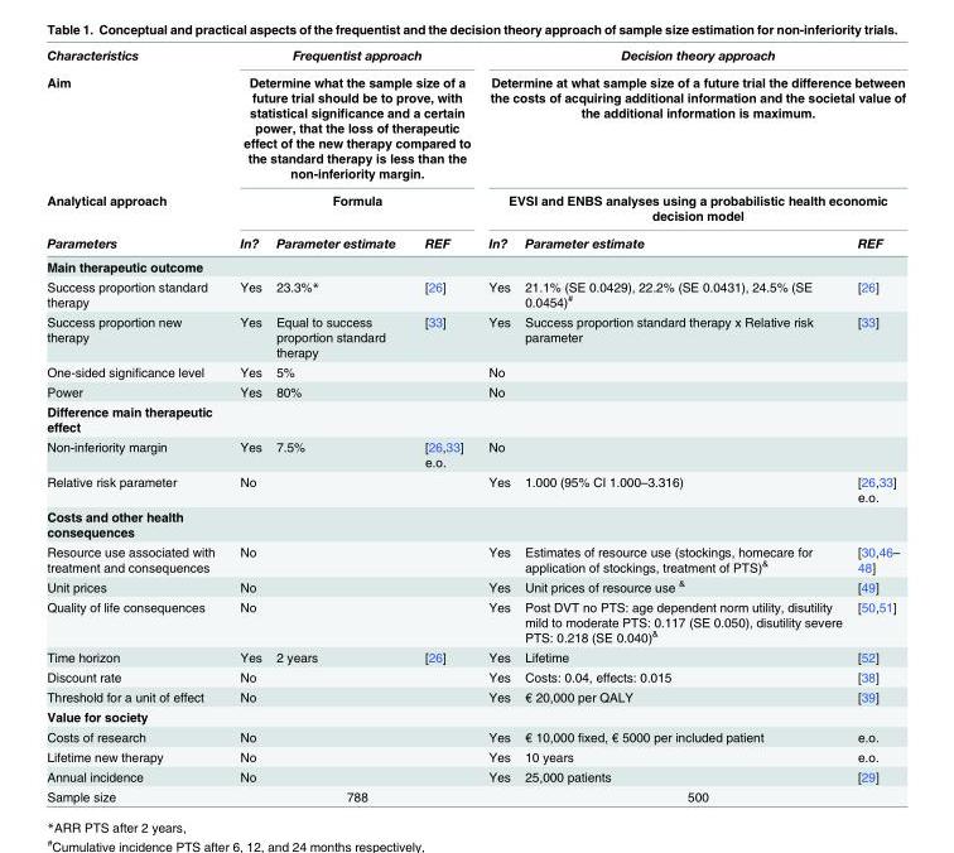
<table><thead><tr><td rowspan="4">Characteristics Aim Analytical approach Parameters</td><td rowspan="3" colspan="3">Frequentist approach Determine what the sample size of a future trial should be to prove, with statistical significance and a certain power, that the loss of therapeutic effect of the new therapy compared to the standard therapy is less than the non-inferiority margin. Formula</td><td rowspan="3" colspan="3">Decision theory approach Determine at what sample size of a future trial the difference between the costs of acquiring additional information and the societal value of the additional information is maximum. EVSI and ENBS analyses using a probabilistic health economic decision model</td></tr><tr></tr><tr></tr><tr><td>In?</td><td>Parameter estimate</td><td>REF</td><td>In?</td><td>Parameter estimate</td><td>REF</td></tr></thead><tbody><tr><td colspan="7">Main therapeutic outcome</td></tr><tr><td>Success proportion standard therapy</td><td>Yes</td><td>23.3%*</td><td>[26]</td><td>Yes</td><td>21.1% (SE 0.0429), 22.2% (SE 0.0431), 24.5% (SE 0.0454)<sup>#</sup></td><td>[26]</td></tr><tr><td>Success proportion new therapy</td><td>Yes</td><td>Equal to success proportion standard therapy</td><td>[33]</td><td>Yes</td><td>Success proportion standard therapy x Relative risk parameter</td><td>[33]</td></tr><tr><td>One-sided significance level</td><td>Yes</td><td>5%</td><td></td><td>No</td><td></td><td></td></tr><tr><td>Power</td><td>Yes</td><td>80%</td><td></td><td>No</td><td></td><td></td></tr><tr><td colspan="7">Difference main therapeutic effect</td></tr><tr><td>Non-inferiority margin</td><td>Yes</td><td>7.5%</td><td>[26,33] e.o.</td><td>No</td><td></td><td></td></tr><tr><td>Relative risk parameter</td><td>No</td><td></td><td></td><td>Yes</td><td>1.000 (95% CI 1.000–3.316)</td><td>[26,33] e.o.</td></tr><tr><td colspan="7">Costs and other health consequences</td></tr><tr><td>Resource use associated with treatment and consequences</td><td>No</td><td></td><td></td><td>Yes</td><td>Estimates of resource use (stockings, homecare for application of stockings, treatment of PTS)<sup>&amp;</sup></td><td>[30,46– 48]</td></tr><tr><td>Unit prices</td><td>No</td><td></td><td></td><td>Yes</td><td>Unit prices of resource use <sup>&amp;</sup></td><td>[49]</td></tr><tr><td>Quality of life consequences</td><td>No</td><td></td><td></td><td>Yes</td><td>Post DVT no PTS: age dependent norm utility, disutility mild to moderate PTS: 0.117 (SE 0.050), disutility severe PTS: 0.218 (SE 0.040)<sup>&amp;</sup></td><td>[50,51]</td></tr><tr><td>Time horizon</td><td>Yes</td><td>2 years</td><td>[26]</td><td>Yes</td><td>Lifetime</td><td>[52]</td></tr><tr><td>Discount rate</td><td>No</td><td></td><td></td><td>Yes</td><td>Costs: 0.04, effects: 0.015</td><td>[38]</td></tr><tr><td>Threshold for a unit of effect</td><td>No</td><td></td><td></td><td>Yes</td><td>€ 20,000 per QALY</td><td>[39]</td></tr><tr><td colspan="7">Value for society</td></tr><tr><td>Costs of research</td><td>No</td><td></td><td></td><td>Yes</td><td>€ 10,000 fixed, € 5000 per included patient</td><td>e.o.</td></tr><tr><td>Lifetime new therapy</td><td>No</td><td></td><td></td><td>Yes</td><td>10 years</td><td>e.o.</td></tr><tr><td>Annual incidence</td><td>No</td><td></td><td></td><td>Yes</td><td>25,000 patients</td><td>[29]</td></tr><tr><td>Sample size</td><td colspan="3">788</td><td colspan="3">500</td></tr></tbody></table>